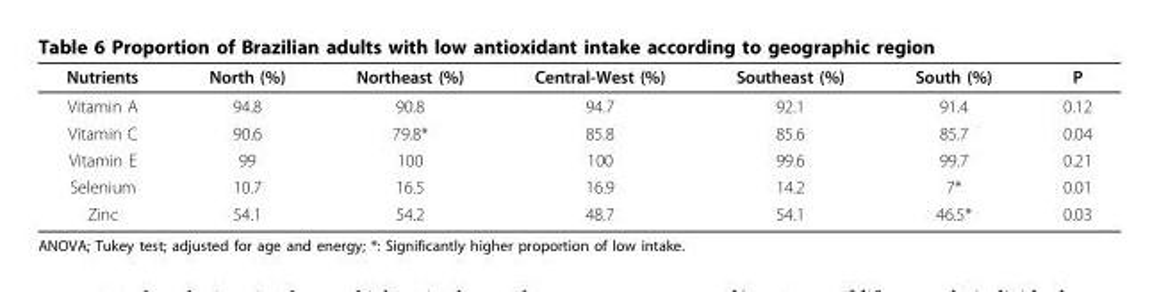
<table><thead><tr><td>Nutrients</td><td>North (%)</td><td>Northeast (%)</td><td>Central-West (%)</td><td>Southeast (%)</td><td>South (%)</td><td>P</td></tr></thead><tbody><tr><td>Vitamin A</td><td>94.8</td><td>90.8</td><td>94.7</td><td>92.1</td><td>91.4</td><td>0.12</td></tr><tr><td>Vitamin C</td><td>90.6</td><td>79.8*</td><td>85.8</td><td>85.6</td><td>85.7</td><td>0.04</td></tr><tr><td>Vitamin E</td><td>99</td><td>100</td><td>100</td><td>99.6</td><td>99.7</td><td>0.21</td></tr><tr><td>Selenium</td><td>10.7</td><td>16.5</td><td>16.9</td><td>14.2</td><td>7*</td><td>0.01</td></tr><tr><td>Zinc</td><td>54.1</td><td>54.2</td><td>48.7</td><td>54.1</td><td>46.5*</td><td>0.03</td></tr></tbody></table>